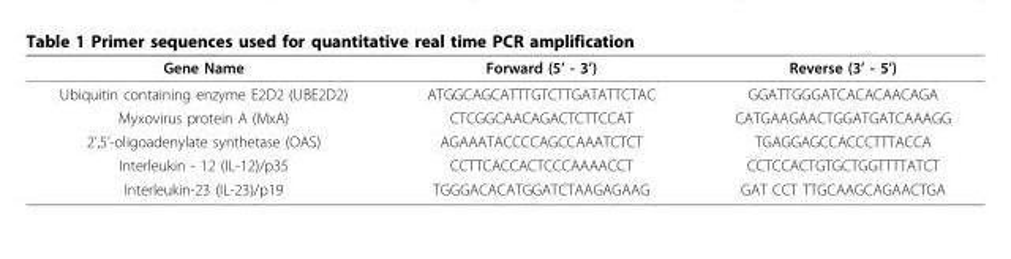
<table><thead><tr><td>Gene Name</td><td>Forward (5’ - 3’)</td><td>Reverse (3’ - 5’)</td></tr></thead><tbody><tr><td>Ubiquitin containing enzyme E2D2 (UBE2D2)</td><td>ATGGCAGCATTTGTCTTGATATTCTAC</td><td>GGATTGGGATCACACAACAGA</td></tr><tr><td>Myxovirus protein A (MxA)</td><td>CTCGGCAACAGACTCTTCCAT</td><td>CATGAAGAACTGGATGATCAAAGG</td></tr><tr><td>2’,5’-oligoadenylate synthetase (OAS)</td><td>AGAAATACCCCAGCCAAATCTCT</td><td>TGAGGAGCCACCCTTTACCA</td></tr><tr><td>Interleukin - 12 (IL-12)/p35</td><td>CCTTCACCACTCCCAAAACCT</td><td>CCTCCACTGTGCTGGTTTTATCT</td></tr><tr><td>Interleukin-23 (IL-23)/p19</td><td>TGGGACACATGGATCTAAGAGAAG</td><td>GAT CCT TTGCAAGCAGAACTGA</td></tr></tbody></table>